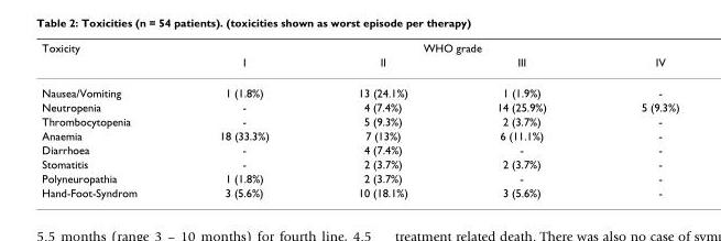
<table><thead><tr><td rowspan="2">Toxicity</td><td colspan="4">WHO grade</td></tr><tr><td>I</td><td>II</td><td>III</td><td>IV</td></tr></thead><tbody><tr><td>Nausea/Vomiting</td><td>1 (1.8%)</td><td>13 (24.1%)</td><td>1 (1.9%)</td><td>-</td></tr><tr><td>Neutropenia</td><td>-</td><td>4 (7.4%)</td><td>14 (25.9%)</td><td>5 (9.3%)</td></tr><tr><td>Thrombocytopenia</td><td>-</td><td>5 (9.3%)</td><td>2 (3.7%)</td><td>-</td></tr><tr><td>Anaemia</td><td>18 (33.3%)</td><td>7 (13%)</td><td>6 (11.1%)</td><td>-</td></tr><tr><td>Diarrhoea</td><td>-</td><td>4 (7.4%)</td><td>-</td><td>-</td></tr><tr><td>Stomatitis</td><td>-</td><td>2 (3.7%)</td><td>2 (3.7%)</td><td>-</td></tr><tr><td>Polyneuropathia</td><td>1 (1.8%)</td><td>2 (3.7%)</td><td>-</td><td>-</td></tr><tr><td>Hand-Foot-Syndrom</td><td>3 (5.6%)</td><td>10 (18.1%)</td><td>3 (5.6%)</td><td>-</td></tr></tbody></table>